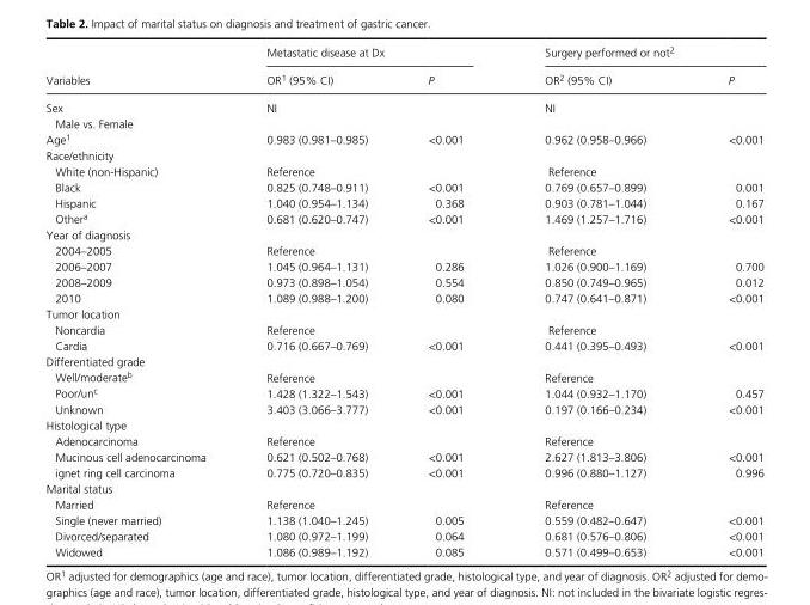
<table><thead><tr><td rowspan="2">Variables</td><td colspan="2">Metastatic disease at Dx</td><td colspan="2">Surgery performed or not<sup>2</sup></td></tr><tr><td>OR<sup>1</sup> (95% CI)</td><td>P</td><td>OR<sup>2</sup> (95% CI)</td><td>P</td></tr></thead><tbody><tr><td>Sex</td><td>NI</td><td></td><td>NI</td><td></td></tr><tr><td colspan="5">Male vs. Female</td></tr><tr><td>Age<sup>1</sup></td><td>0.983 (0.981–0.985)</td><td>&lt;0.001</td><td>0.962 (0.958–0.966)</td><td>&lt;0.001</td></tr><tr><td colspan="5">Race/ethnicity</td></tr><tr><td>White (non- Hispanic)</td><td>Reference</td><td></td><td>Reference</td><td></td></tr><tr><td>Black</td><td>0.825 (0.748–0.911)</td><td>&lt;0.001</td><td>0.769 (0.657–0.899)</td><td>0.001</td></tr><tr><td>Hispanic</td><td>1.040 (0.954–1.134)</td><td>0.368</td><td>0.903 (0.781–1.044)</td><td>0.167</td></tr><tr><td>Other<sup>a</sup></td><td>0.681 (0.620–0.747)</td><td>&lt;0.001</td><td>1.469 (1.257–1.716)</td><td>&lt;0.001</td></tr><tr><td colspan="5">Year of diagnosis</td></tr><tr><td>2004–2005</td><td>Reference</td><td></td><td>Reference</td><td></td></tr><tr><td>2006–2007</td><td>1.045 (0.964–1.131)</td><td>0.286</td><td>1.026 (0.900–1.169)</td><td>0.700</td></tr><tr><td>2008–2009</td><td>0.973 (0.898–1.054)</td><td>0.554</td><td>0.850 (0.749–0.965)</td><td>0.012</td></tr><tr><td>2010</td><td>1.089 (0.988–1.200)</td><td>0.080</td><td>0.747 (0.641–0.871)</td><td>&lt;0.001</td></tr><tr><td colspan="5">Tumor location</td></tr><tr><td>Noncardia</td><td>Reference</td><td></td><td>Reference</td><td></td></tr><tr><td>Cardia</td><td>0.716 (0.667–0.769)</td><td>&lt;0.001</td><td>0.441 (0.395–0.493)</td><td>&lt;0.001</td></tr><tr><td colspan="5">Differentiated grade</td></tr><tr><td>Well/moderate<sup>b</sup></td><td>Reference</td><td></td><td>Reference</td><td></td></tr><tr><td>Poor/un<sup>c</sup></td><td>1.428 (1.322–1.543)</td><td>&lt;0.001</td><td>1.044 (0.932–1.170)</td><td>0.457</td></tr><tr><td>Unknown</td><td>3.403 (3.066–3.777)</td><td>&lt;0.001</td><td>0.197 (0.166–0.234)</td><td>&lt;0.001</td></tr><tr><td colspan="5">Histological type</td></tr><tr><td>Adenocarcinoma</td><td>Reference</td><td></td><td>Reference</td><td></td></tr><tr><td>Mucinous cell adenocarcinoma</td><td>0.621 (0.502–0.768)</td><td>&lt;0.001</td><td>2.627 (1.813–3.806)</td><td>&lt;0.001</td></tr><tr><td>ignet ring cell carcinoma</td><td>0.775 (0.720–0.835)</td><td>&lt;0.001</td><td>0.996 (0.880–1.127)</td><td>0.996</td></tr><tr><td colspan="5">Marital status</td></tr><tr><td>Married</td><td>Reference</td><td></td><td>Reference</td><td></td></tr><tr><td>Single (never married)</td><td>1.138 (1.040–1.245)</td><td>0.005</td><td>0.559 (0.482–0.647)</td><td>&lt;0.001</td></tr><tr><td>Divorced/separated</td><td>1.080 (0.972–1.199)</td><td>0.064</td><td>0.681 (0.576–0.806)</td><td>&lt;0.001</td></tr><tr><td>Widowed</td><td>1.086 (0.989–1.192)</td><td>0.085</td><td>0.571 (0.499–0.653)</td><td>&lt;0.001</td></tr></tbody></table>